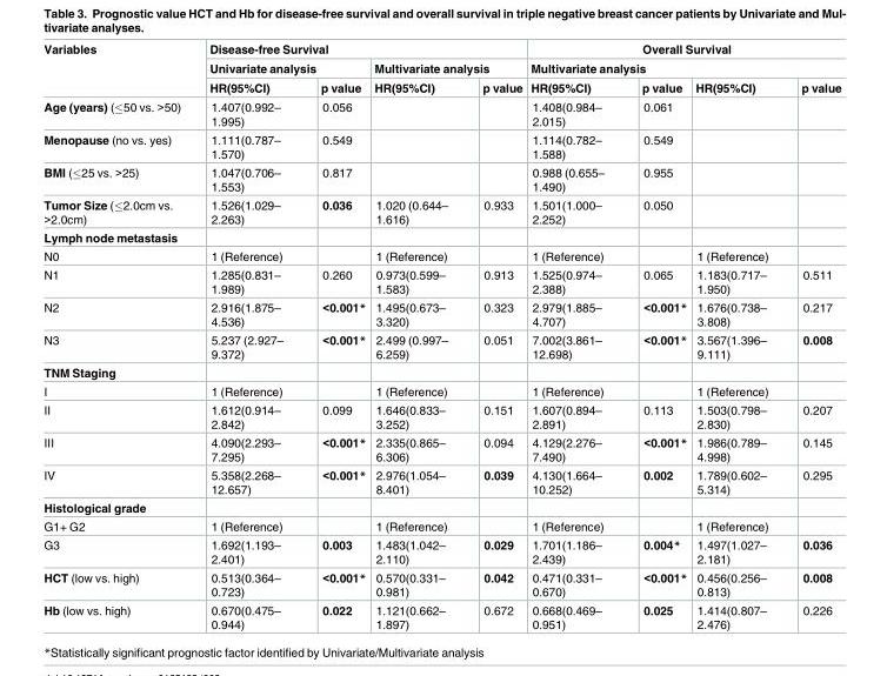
<table><thead><tr><td rowspan="3">Variables</td><td colspan="4">Disease-free Survival</td><td rowspan="2" colspan="4">Overall Survival Multivariate analysis</td></tr><tr><td colspan="2">Univariate analysis</td><td colspan="2">Multivariate analysis</td></tr><tr><td>HR(95%CI)</td><td>p value</td><td>HR(95%CI)</td><td>p value</td><td>HR(95%CI)</td><td>p value</td><td>HR(95%CI)</td><td>p value</td></tr></thead><tbody><tr><td>Age (years) (≤50 vs. &gt;50)</td><td>1.407(0.992– 1.995)</td><td>0.056</td><td></td><td></td><td>1.408(0.984– 2.015)</td><td>0.061</td><td></td><td></td></tr><tr><td>Menopause (no vs. yes)</td><td>1.111(0.787– 1.570)</td><td>0.549</td><td></td><td></td><td>1.114(0.782– 1.588)</td><td>0.549</td><td></td><td></td></tr><tr><td>BMI (≤25 vs. &gt;25)</td><td>1.047(0.706– 1.553)</td><td>0.817</td><td></td><td></td><td>0.988 (0.655– 1.490)</td><td>0.955</td><td></td><td></td></tr><tr><td>Tumor Size (≤2.0cm vs. &gt;2.0cm)</td><td>1.526(1.029– 2.263)</td><td>0.036</td><td>1.020 (0.644– 1.616)</td><td>0.933</td><td>1.501(1.000– 2.252)</td><td>0.050</td><td></td><td></td></tr><tr><td colspan="9">Lymph node metastasis</td></tr><tr><td>N0</td><td>1 (Reference)</td><td></td><td>1 (Reference)</td><td></td><td>1 (Reference)</td><td></td><td>1 (Reference)</td><td></td></tr><tr><td>N1</td><td>1.285(0.831– 1.989)</td><td>0.260</td><td>0.973(0.599– 1.583)</td><td>0.913</td><td>1.525(0.974– 2.388)</td><td>0.065</td><td>1.183(0.717– 1.950)</td><td>0.511</td></tr><tr><td>N2</td><td>2.916(1.875– 4.536)</td><td>&lt;0.001*</td><td>1.495(0.673– 3.320)</td><td>0.323</td><td>2.979(1.885– 4.707)</td><td>&lt;0.001*</td><td>1.676(0.738– 3.808)</td><td>0.217</td></tr><tr><td>N3</td><td>5.237 (2.927– 9.372)</td><td>&lt;0.001*</td><td>2.499 (0.997– 6.259)</td><td>0.051</td><td>7.002(3.861– 12.698)</td><td>&lt;0.001*</td><td>3.567(1.396– 9.111)</td><td>0.008</td></tr><tr><td colspan="9">TNM Staging</td></tr><tr><td>I</td><td>1 (Reference)</td><td></td><td>1 (Reference)</td><td></td><td>1 (Reference)</td><td></td><td>1 (Reference)</td><td></td></tr><tr><td>II</td><td>1.612(0.914– 2.842)</td><td>0.099</td><td>1.646(0.833– 3.252)</td><td>0.151</td><td>1.607(0.894– 2.891)</td><td>0.113</td><td>1.503(0.798– 2.830)</td><td>0.207</td></tr><tr><td>III</td><td>4.090(2.293– 7.295)</td><td>&lt;0.001*</td><td>2.335(0.865– 6.306)</td><td>0.094</td><td>4.129(2.276– 7.490)</td><td>&lt;0.001*</td><td>1.986(0.789– 4.998)</td><td>0.145</td></tr><tr><td>IV</td><td>5.358(2.268– 12.657)</td><td>&lt;0.001*</td><td>2.976(1.054– 8.401)</td><td>0.039</td><td>4.130(1.664– 10.252)</td><td>0.002</td><td>1.789(0.602– 5.314)</td><td>0.295</td></tr><tr><td colspan="9">Histological grade</td></tr><tr><td>G1+ G2</td><td>1 (Reference)</td><td></td><td>1 (Reference)</td><td></td><td>1 (Reference)</td><td></td><td>1 (Reference)</td><td></td></tr><tr><td>G3</td><td>1.692(1.193– 2.401)</td><td>0.003</td><td>1.483(1.042– 2.110)</td><td>0.029</td><td>1.701(1.186– 2.439)</td><td>0.004*</td><td>1.497(1.027– 2.181)</td><td>0.036</td></tr><tr><td>HCT (low vs. high)</td><td>0.513(0.364– 0.723)</td><td>&lt;0.001*</td><td>0.570(0.331– 0.981)</td><td>0.042</td><td>0.471(0.331– 0.670)</td><td>&lt;0.001*</td><td>0.456(0.256– 0.813)</td><td>0.008</td></tr><tr><td>Hb (low vs. high)</td><td>0.670(0.475– 0.944)</td><td>0.022</td><td>1.121(0.662– 1.897)</td><td>0.672</td><td>0.668(0.469– 0.951)</td><td>0.025</td><td>1.414(0.807– 2.476)</td><td>0.226</td></tr></tbody></table>